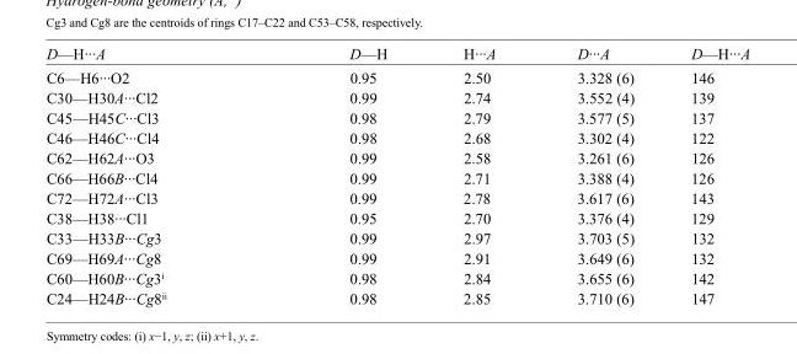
<table><tbody><tr><td>D—H···A</td><td>D—H</td><td>H···A</td><td>D···A</td><td>D—H···A</td></tr><tr><td>C6—H6···O2</td><td>0.95</td><td>2.50</td><td>3.328 (6)</td><td>146</td></tr><tr><td>C30—H30A···Cl2</td><td>0.99</td><td>2.74</td><td>3.552 (4)</td><td>139</td></tr><tr><td>C45—H45C···Cl3</td><td>0.98</td><td>2.79</td><td>3.577 (5)</td><td>137</td></tr><tr><td>C46—H46C···Cl4</td><td>0.98</td><td>2.68</td><td>3.302 (4)</td><td>122</td></tr><tr><td>C62—H62A···O3</td><td>0.99</td><td>2.58</td><td>3.261 (6)</td><td>126</td></tr><tr><td>C66—H66B···Cl4</td><td>0.99</td><td>2.71</td><td>3.388 (4)</td><td>126</td></tr><tr><td>C72—H72A···Cl3</td><td>0.99</td><td>2.78</td><td>3.617 (6)</td><td>143</td></tr><tr><td>C38—H38···Cl1</td><td>0.95</td><td>2.70</td><td>3.376 (4)</td><td>129</td></tr><tr><td>C33—H33B···Cg3</td><td>0.99</td><td>2.97</td><td>3.703 (5)</td><td>132</td></tr><tr><td>C69—H69A···Cg8</td><td>0.99</td><td>2.91</td><td>3.649 (6)</td><td>132</td></tr><tr><td>C60—H60B···Cg3<sup>i</sup></td><td>0.98</td><td>2.84</td><td>3.655 (6)</td><td>142</td></tr><tr><td>C24—H24B···Cg8<sup>ii</sup></td><td>0.98</td><td>2.85</td><td>3.710 (6)</td><td>147</td></tr></tbody></table>